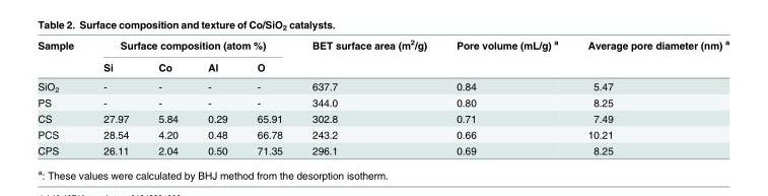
<table><thead><tr><td rowspan="2">Sample</td><td colspan="4">Surface composition (atom %)</td><td rowspan="2">BET surface area (m<sup>2</sup>/g)</td><td rowspan="2">Pore volume (mL/g) <sup>a</sup></td><td rowspan="2">Average pore diameter (nm) <sup>a</sup></td></tr><tr><td>Si</td><td>Co</td><td>Al</td><td>O</td></tr></thead><tbody><tr><td>SiO<sub>2</sub></td><td>-</td><td>-</td><td>-</td><td>-</td><td>637.7</td><td>0.84</td><td>5.47</td></tr><tr><td>PS</td><td>-</td><td>-</td><td>-</td><td>-</td><td>344.0</td><td>0.80</td><td>8.25</td></tr><tr><td>CS</td><td>27.97</td><td>5.84</td><td>0.29</td><td>65.91</td><td>302.8</td><td>0.71</td><td>7.49</td></tr><tr><td>PCS</td><td>28.54</td><td>4.20</td><td>0.48</td><td>66.78</td><td>243.2</td><td>0.66</td><td>10.21</td></tr><tr><td>CPS</td><td>26.11</td><td>2.04</td><td>0.50</td><td>71.35</td><td>296.1</td><td>0.69</td><td>8.25</td></tr></tbody></table>